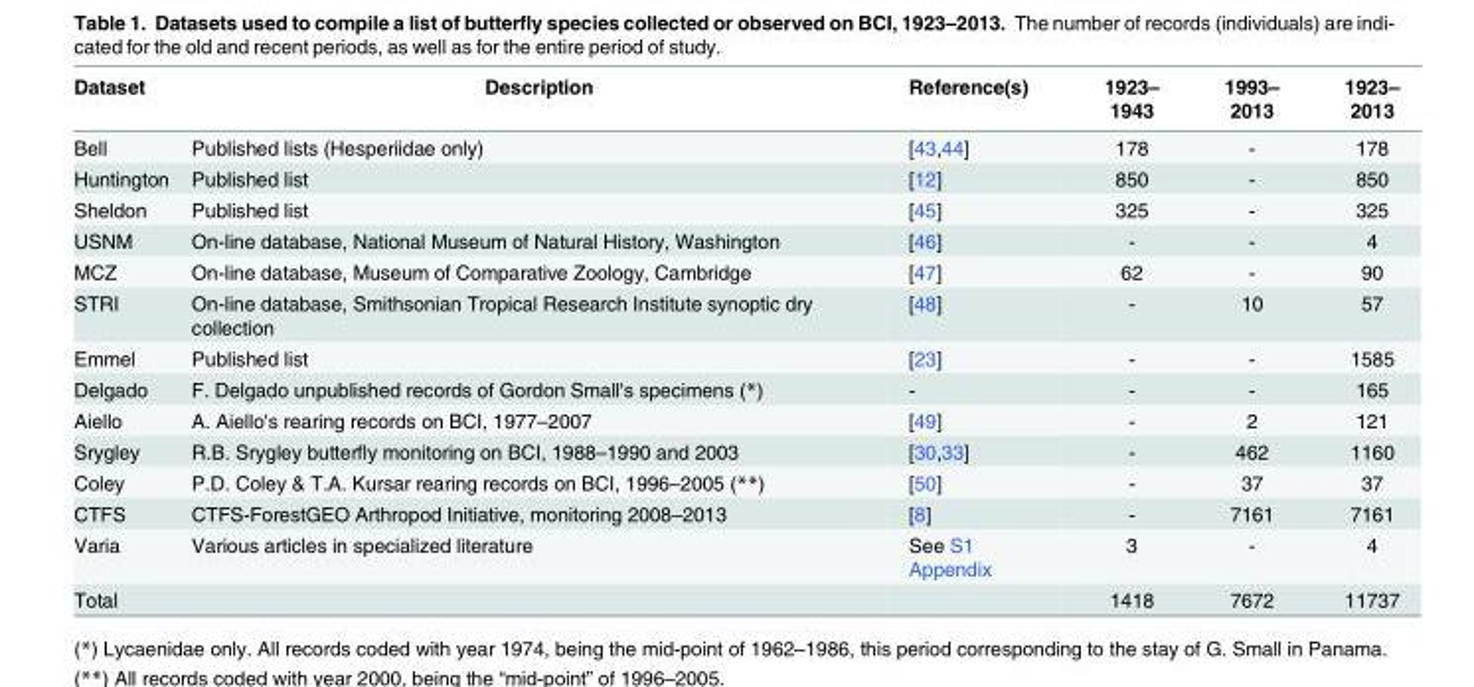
<table><thead><tr><td>Dataset</td><td>Description</td><td>Reference(s)</td><td>1923– 1943</td><td>1993– 2013</td><td>1923– 2013</td></tr></thead><tbody><tr><td>Bell</td><td>Published lists (Hesperiidae only)</td><td>[43,44]</td><td>178</td><td>-</td><td>178</td></tr><tr><td>Huntington</td><td>Published list</td><td>[12]</td><td>850</td><td>-</td><td>850</td></tr><tr><td>Sheldon</td><td>Published list</td><td>[45]</td><td>325</td><td>-</td><td>325</td></tr><tr><td>USNM</td><td>On-line database, National Museum of Natural History, Washington</td><td>[46]</td><td>-</td><td>-</td><td>4</td></tr><tr><td>MCZ</td><td>On-line database, Museum of Comparative Zoology, Cambridge</td><td>[47]</td><td>62</td><td>-</td><td>90</td></tr><tr><td>STRI</td><td>On-line database, Smithsonian Tropical Research Institute synoptic dry collection</td><td>[48]</td><td>-</td><td>10</td><td>57</td></tr><tr><td>Emmel</td><td>Published list</td><td>[23]</td><td>-</td><td>-</td><td>1585</td></tr><tr><td>Delgado</td><td>F. Delgado unpublished records of Gordon Small&#x27;s specimens (*)</td><td>-</td><td>-</td><td>-</td><td>165</td></tr><tr><td>Aiello</td><td>A. Aiello&#x27;s rearing records on BCI, 1977–2007</td><td>[49]</td><td>-</td><td>2</td><td>121</td></tr><tr><td>Srygley</td><td>R.B. Srygley butterfly monitoring on BCI, 1988–1990 and 2003</td><td>[30,33]</td><td>-</td><td>462</td><td>1160</td></tr><tr><td>Coley</td><td>P.D. Coley &amp; T.A. Kursar rearing records on BCI, 1996–2005 (**)</td><td>[50]</td><td>-</td><td>37</td><td>37</td></tr><tr><td>CTFS</td><td>CTFS-ForestGEO Arthropod Initiative, monitoring 2008–2013</td><td>[8]</td><td>-</td><td>7161</td><td>7161</td></tr><tr><td>Varia</td><td>Various articles in specialized literature</td><td>See S1 Appendix</td><td>3</td><td>-</td><td>4</td></tr><tr><td>Total</td><td></td><td></td><td>1418</td><td>7672</td><td>11737</td></tr></tbody></table>